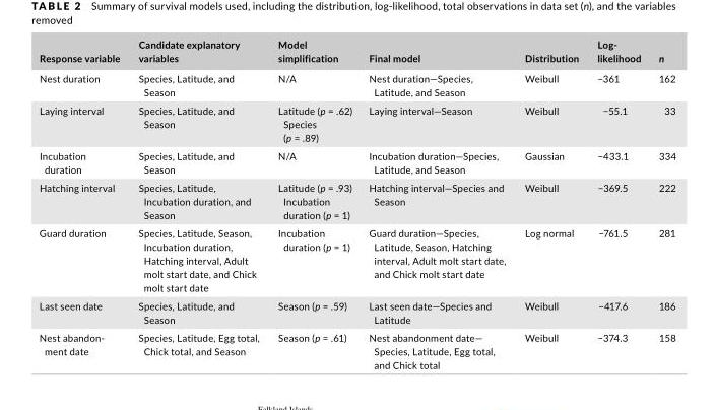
<table><thead><tr><td>Response variable</td><td>Candidate explanatory variables</td><td>Model simplification</td><td>Final model</td><td>Distribution</td><td>Log- likelihood</td><td>n</td></tr></thead><tbody><tr><td>Nest duration</td><td>Species, Latitude, and Season</td><td>N/A</td><td>Nest duration—Species, Latitude, and Season</td><td>Weibull</td><td>−361</td><td>162</td></tr><tr><td>Laying interval</td><td>Species, Latitude, and Season</td><td>Latitude (p = .62) Species (p = .89)</td><td>Laying interval—Season</td><td>Weibull</td><td>−55.1</td><td>33</td></tr><tr><td>Incubation duration</td><td>Species, Latitude, and Season</td><td>N/A</td><td>Incubation duration—Species, Latitude, and Season</td><td>Gaussian</td><td>−433.1</td><td>334</td></tr><tr><td>Hatching interval</td><td>Species, Latitude, Incubation duration, and Season</td><td>Latitude (p = .93) Incubation duration (p = 1)</td><td>Hatching interval—Species and Season</td><td>Weibull</td><td>−369.5</td><td>222</td></tr><tr><td>Guard duration</td><td>Species, Latitude, Season, Incubation duration, Hatching interval, Adult molt start date, and Chick molt start date</td><td>Incubation duration (p = 1)</td><td>Guard duration—Species, Latitude, Season, Hatching interval, Adult molt start date, and Chick molt start date</td><td>Log normal</td><td>−761.5</td><td>281</td></tr><tr><td>Last seen date</td><td>Species, Latitude, and Season</td><td>Season (p = .59)</td><td>Last seen date—Species and Latitude</td><td>Weibull</td><td>−417.6</td><td>186</td></tr><tr><td>Nest abandon- ment date</td><td>Species, Latitude, Egg total, Chick total, and Season</td><td>Season (p = .61)</td><td>Nest abandonment date— Species, Latitude, Egg total, and Chick total</td><td>Weibull</td><td>−374.3</td><td>158</td></tr></tbody></table>